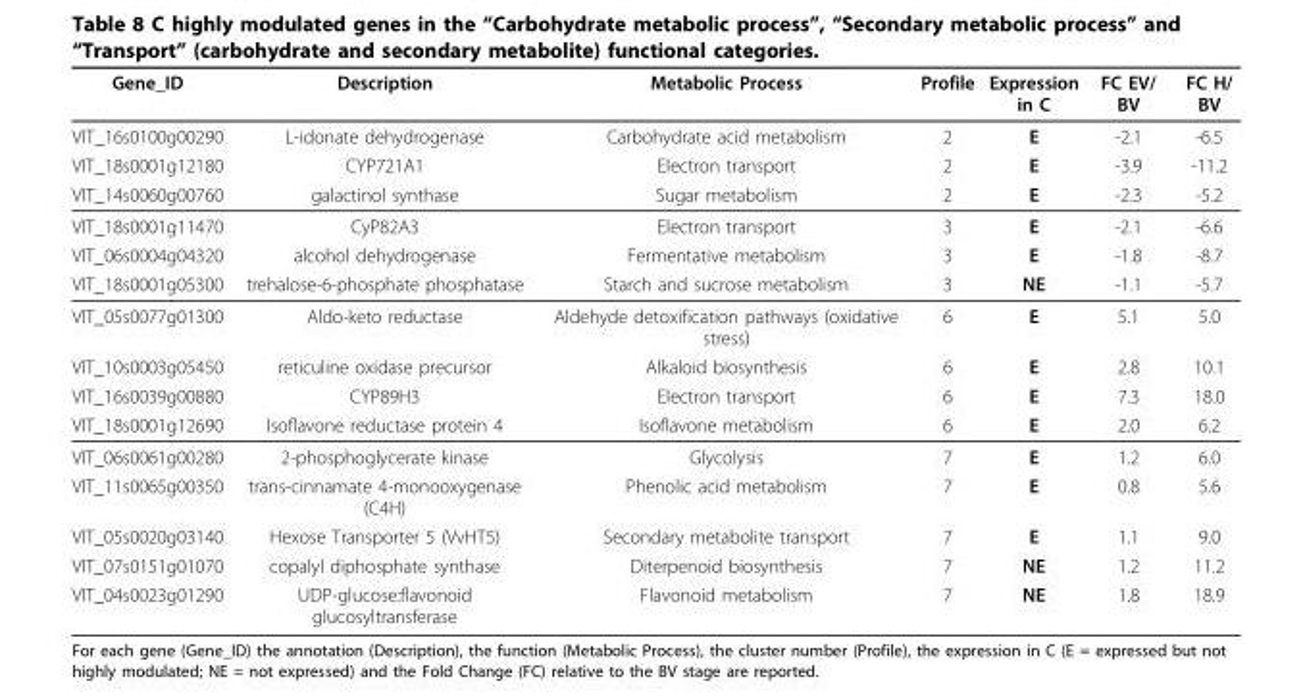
<table><thead><tr><td>Gene_ID</td><td>Description</td><td>Metabolic Process</td><td>Profile</td><td>Expression in C</td><td>FC EV/ BV</td><td>FC H/ BV</td></tr></thead><tbody><tr><td>VIT_16s0100g00290</td><td>L-idonate dehydrogenase</td><td>Carbohydrate acid metabolism</td><td>2</td><td>E</td><td>-2.1</td><td>-6.5</td></tr><tr><td>VIT_18s0001g12180</td><td>CYP721A1</td><td>Electron transport</td><td>2</td><td>E</td><td>-3.9</td><td>-11.2</td></tr><tr><td>VIT_14s0060g00760</td><td>galactinol synthase</td><td>Sugar metabolism</td><td>2</td><td>E</td><td>-2.3</td><td>-5.2</td></tr><tr><td>VIT_18s0001g11470</td><td>CyP82A3</td><td>Electron transport</td><td>3</td><td>E</td><td>-2.1</td><td>-6.6</td></tr><tr><td>VIT_06s0004g04320</td><td>alcohol dehydrogenase</td><td>Fermentative metabolism</td><td>3</td><td>E</td><td>-1.8</td><td>-8.7</td></tr><tr><td>VIT_18s0001g05300</td><td>trehalose-6-phosphate phosphatase</td><td>Starch and sucrose metabolism</td><td>3</td><td>NE</td><td>-1.1</td><td>-5.7</td></tr><tr><td>VIT_05s0077g01300</td><td>Aldo-keto reductase</td><td>Aldehyde detoxification pathways (oxidative stress)</td><td>6</td><td>E</td><td>5.1</td><td>5.0</td></tr><tr><td>VIT_10s0003g05450</td><td>reticuline oxidase precursor</td><td>Alkaloid biosynthesis</td><td>6</td><td>E</td><td>2.8</td><td>10.1</td></tr><tr><td>VIT_16s0039g00880</td><td>CYP89H3</td><td>Electron transport</td><td>6</td><td>E</td><td>7.3</td><td>18.0</td></tr><tr><td>VIT_18s0001g12690</td><td>Isoflavone reductase protein 4</td><td>Isoflavone metabolism</td><td>6</td><td>E</td><td>2.0</td><td>6.2</td></tr><tr><td>VIT_06s0061g00280</td><td>2-phosphoglycerate kinase</td><td>Glycolysis</td><td>7</td><td>E</td><td>1.2</td><td>6.0</td></tr><tr><td>VIT_11s0065g00350</td><td>trans-cinnamate 4-monooxygenase (C4H)</td><td>Phenolic acid metabolism</td><td>7</td><td>E</td><td>0.8</td><td>5.6</td></tr><tr><td>VIT_05s0020g03140</td><td>Hexose Transporter 5 (VvHT5)</td><td>Secondary metabolite transport</td><td>7</td><td>E</td><td>1.1</td><td>9.0</td></tr><tr><td>VIT_07s0151g01070</td><td>copalyl diphosphate synthase</td><td>Diterpenoid biosynthesis</td><td>7</td><td>NE</td><td>1.2</td><td>11.2</td></tr><tr><td>VIT_04s0023g01290</td><td>UDP-glucose:flavonoid glucosyltransferase</td><td>Flavonoid metabolism</td><td>7</td><td>NE</td><td>1.8</td><td>18.9</td></tr></tbody></table>